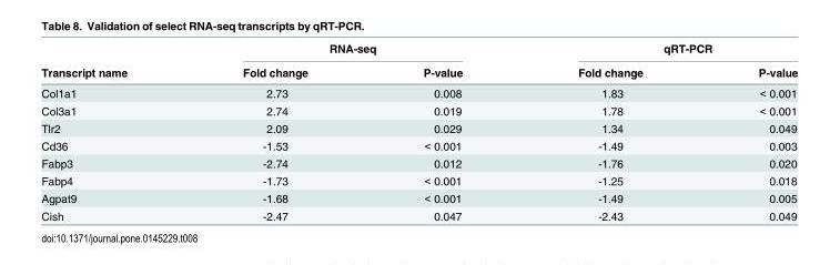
<table><thead><tr><td rowspan="2">Transcript name</td><td colspan="2">RNA-seq</td><td colspan="2">qRT-PCR</td></tr><tr><td>Fold change</td><td>P-value</td><td>Fold change</td><td>P-value</td></tr></thead><tbody><tr><td>Col1a1</td><td>2.73</td><td>0.008</td><td>1.83</td><td>&lt; 0.001</td></tr><tr><td>Col3a1</td><td>2.74</td><td>0.019</td><td>1.78</td><td>&lt; 0.001</td></tr><tr><td>Tlr2</td><td>2.09</td><td>0.029</td><td>1.34</td><td>0.049</td></tr><tr><td>Cd36</td><td>-1.53</td><td>&lt; 0.001</td><td>-1.49</td><td>0.003</td></tr><tr><td>Fabp3</td><td>-2.74</td><td>0.012</td><td>-1.76</td><td>0.020</td></tr><tr><td>Fabp4</td><td>-1.73</td><td>&lt; 0.001</td><td>-1.25</td><td>0.018</td></tr><tr><td>Agpat9</td><td>-1.68</td><td>&lt; 0.001</td><td>-1.49</td><td>0.005</td></tr><tr><td>Cish</td><td>-2.47</td><td>0.047</td><td>-2.43</td><td>0.049</td></tr></tbody></table>